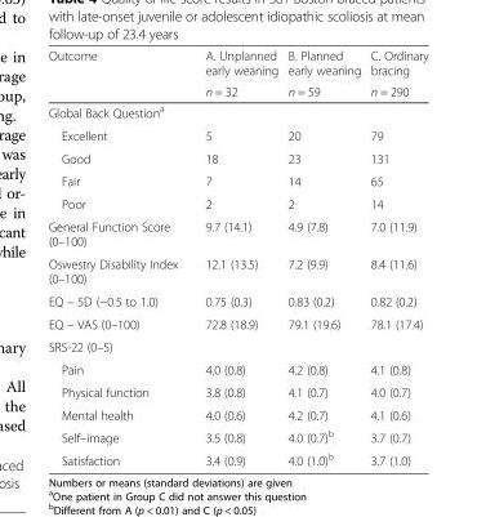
<table><thead><tr><td rowspan="2">Outcome</td><td rowspan="2">A. Unplanned early weaning n = 32</td><td rowspan="2">B. Planned early weaning n = 59</td><td rowspan="2">C. Ordinary bracing n = 290</td></tr><tr></tr></thead><tbody><tr><td colspan="4">Global Back Question<sup>a</sup></td></tr><tr><td>Excellent</td><td>5</td><td>20</td><td>79</td></tr><tr><td>Good</td><td>18</td><td>23</td><td>131</td></tr><tr><td>Fair</td><td>7</td><td>14</td><td>65</td></tr><tr><td>Poor</td><td>2</td><td>2</td><td>14</td></tr><tr><td>General Function Score (0–100)</td><td>9.7 (14.1)</td><td>4.9 (7.8)</td><td>7.0 (11.9)</td></tr><tr><td>Oswestry Disability Index (0–100)</td><td>12.1 (13.5)</td><td>7.2 (9.9)</td><td>8.4 (11.6)</td></tr><tr><td>EQ – 5D (−0.5 to 1.0)</td><td>0.75 (0.3)</td><td>0.83 (0.2)</td><td>0.82 (0.2)</td></tr><tr><td>EQ – VAS (0–100)</td><td>72.8 (18.9)</td><td>79.1 (19.6)</td><td>78.1 (17.4)</td></tr><tr><td colspan="4">SRS-22 (0–5)</td></tr><tr><td>Pain</td><td>4.0 (0.8)</td><td>4.2 (0.8)</td><td>4.1 (0.8)</td></tr><tr><td>Physical function</td><td>3.8 (0.8)</td><td>4.1 (0.7)</td><td>4.0 (0.7)</td></tr><tr><td>Mental health</td><td>4.0 (0.6)</td><td>4.2 (0.7)</td><td>4.1 (0.6)</td></tr><tr><td>Self–image</td><td>3.5 (0.8)</td><td>4.0 (0.7)<sup>b</sup></td><td>3.7 (0.7)</td></tr><tr><td>Satisfaction</td><td>3.4 (0.9)</td><td>4.0 (1.0)<sup>b</sup></td><td>3.7 (1.0)</td></tr></tbody></table>